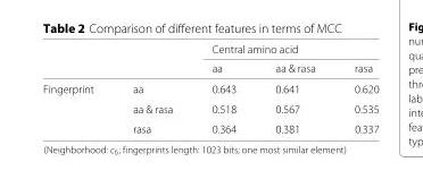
<table><thead><tr><td rowspan="2"></td><td rowspan="2"></td><td colspan="3">Central amino acid</td></tr><tr><td>aa</td><td>aa &amp; rasa</td><td>rasa</td></tr></thead><tbody><tr><td rowspan="3">Fingerprint</td><td>aa</td><td>0.643</td><td>0.641</td><td>0.620</td></tr><tr><td>aa &amp; rasa</td><td>0.518</td><td>0.567</td><td>0.535</td></tr><tr><td>rasa</td><td>0.364</td><td>0.381</td><td>0.337</td></tr></tbody></table>